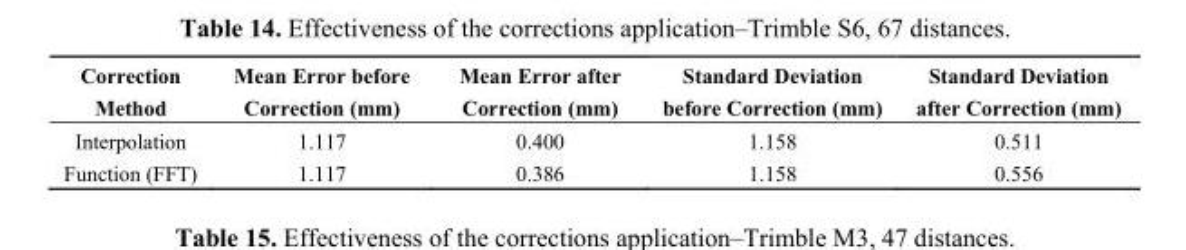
<table><thead><tr><td>Correction Method</td><td>Mean Error before Correction (mm)</td><td>Mean Error after Correction (mm)</td><td>Standard Deviation before Correction (mm)</td><td>Standard Deviation after Correction (mm)</td></tr></thead><tbody><tr><td>Interpolation</td><td>1.117</td><td>0.400</td><td>1.158</td><td>0.511</td></tr><tr><td>Function (FFT)</td><td>1.117</td><td>0.386</td><td>1.158</td><td>0.556</td></tr></tbody></table>